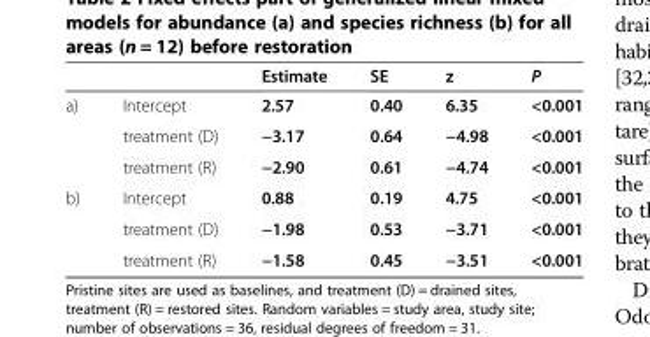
<table><thead><tr><td></td><td></td><td>Estimate</td><td>SE</td><td>z</td><td>P</td></tr></thead><tbody><tr><td rowspan="3">a)</td><td>Intercept</td><td>2.57</td><td>0.40</td><td>6.35</td><td>&lt;0.001</td></tr><tr><td>treatment (D)</td><td>−3.17</td><td>0.64</td><td>−4.98</td><td>&lt;0.001</td></tr><tr><td>treatment (R)</td><td>−2.90</td><td>0.61</td><td>−4.74</td><td>&lt;0.001</td></tr><tr><td rowspan="3">b)</td><td>Intercept</td><td>0.88</td><td>0.19</td><td>4.75</td><td>&lt;0.001</td></tr><tr><td>treatment (D)</td><td>−1.98</td><td>0.53</td><td>−3.71</td><td>&lt;0.001</td></tr><tr><td>treatment (R)</td><td>−1.58</td><td>0.45</td><td>−3.51</td><td>&lt;0.001</td></tr></tbody></table>